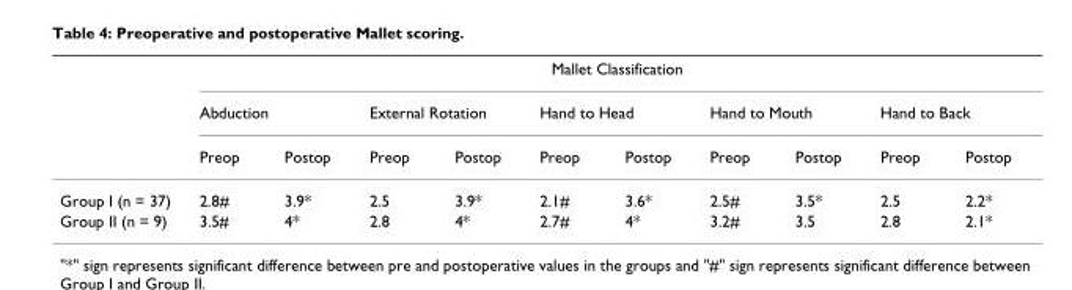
<table><thead><tr><td rowspan="3"></td><td colspan="10">Mallet Classification</td></tr><tr><td colspan="2">Abduction</td><td colspan="2">External Rotation</td><td colspan="2">Hand to Head</td><td colspan="2">Hand to Mouth</td><td colspan="2">Hand to Back</td></tr><tr><td>Preop</td><td>Postop</td><td>Preop</td><td>Postop</td><td>Preop</td><td>Postop</td><td>Preop</td><td>Postop</td><td>Preop</td><td>Postop</td></tr></thead><tbody><tr><td>Group I (n = 37)</td><td>2.8#</td><td>3.9*</td><td>2.5</td><td>3.9*</td><td>2.1#</td><td>3.6*</td><td>2.5#</td><td>3.5*</td><td>2.5</td><td>2.2*</td></tr><tr><td>Group II (n = 9)</td><td>3.5#</td><td>4*</td><td>2.8</td><td>4*</td><td>2.7#</td><td>4*</td><td>3.2#</td><td>3.5</td><td>2.8</td><td>2.1*</td></tr></tbody></table>